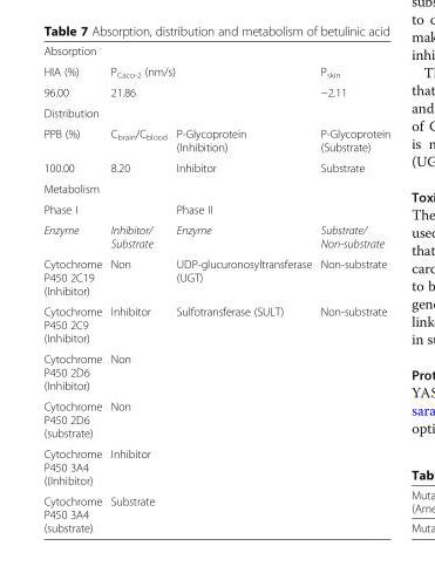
<table><tbody><tr><td colspan="4">Absorption</td></tr><tr><td>HIA (%)</td><td colspan="2">P<sub>Caco-2</sub> (nm/s)</td><td>P<sub>skin</sub></td></tr><tr><td>96.00</td><td colspan="2">21.86</td><td>−2.11</td></tr><tr><td colspan="4">Distribution</td></tr><tr><td>PPB (%)</td><td>C<sub>brain</sub>/C<sub>blood</sub></td><td>P-Glycoprotein (Inhibition)</td><td>P-Glycoprotein (Substrate)</td></tr><tr><td>100.00</td><td>8.20</td><td>Inhibitor</td><td>Substrate</td></tr><tr><td colspan="4">Metabolism</td></tr><tr><td colspan="2">Phase I</td><td colspan="2">Phase II</td></tr><tr><td>Enzyme</td><td>Inhibitor/ Substrate</td><td>Enzyme</td><td>Substrate/ Non-substrate</td></tr><tr><td>Cytochrome P450 2C19 (Inhibitor)</td><td>Non</td><td>UDP-glucuronosyltransferase (UGT)</td><td>Non-substrate</td></tr><tr><td>Cytochrome P450 2C9 (Inhibitor)</td><td>Inhibitor</td><td>Sulfotransferase (SULT)</td><td>Non-substrate</td></tr><tr><td>Cytochrome P450 2D6 (Inhibitor)</td><td>Non</td><td></td><td></td></tr><tr><td>Cytochrome P450 2D6 (substrate)</td><td>Non</td><td></td><td></td></tr><tr><td>Cytochrome P450 3A4 ((Inhibitor)</td><td>Inhibitor</td><td></td><td></td></tr><tr><td>Cytochrome P450 3A4 (substrate)</td><td>Substrate</td><td></td><td></td></tr></tbody></table>